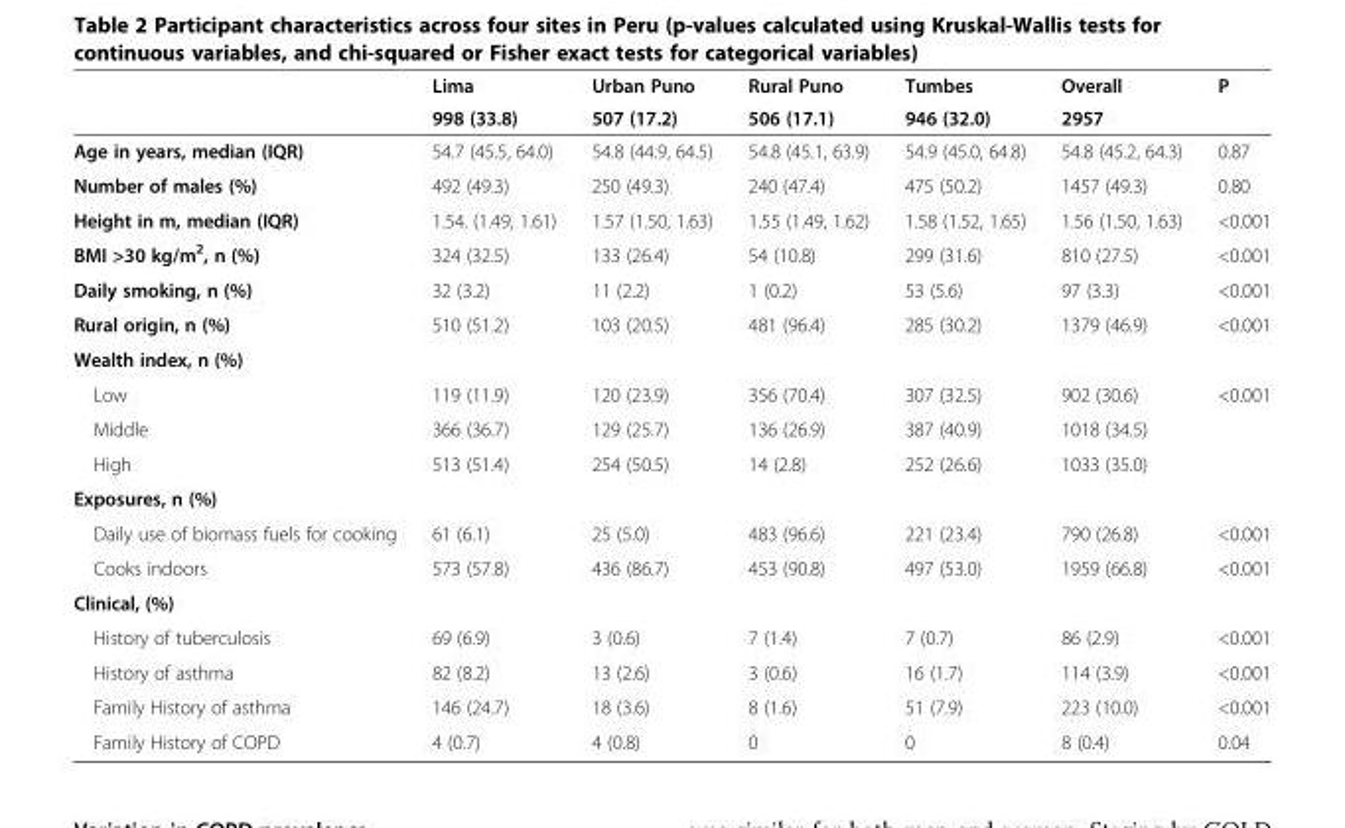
<table><thead><tr><td rowspan="2"></td><td rowspan="2">Lima 998 (33.8)</td><td rowspan="2">Urban Puno 507 (17.2)</td><td rowspan="2">Rural Puno 506 (17.1)</td><td rowspan="2">Tumbes 946 (32.0)</td><td rowspan="2">Overall 2957</td><td rowspan="2">P</td></tr><tr></tr></thead><tbody><tr><td>Age in years, median (IQR)</td><td>54.7 (45.5, 64.0)</td><td>54.8 (44.9, 64.5)</td><td>54.8 (45.1, 63.9)</td><td>54.9 (45.0, 64.8)</td><td>54.8 (45.2, 64.3)</td><td>0.87</td></tr><tr><td>Number of males (%)</td><td>492 (49.3)</td><td>250 (49.3)</td><td>240 (47.4)</td><td>475 (50.2)</td><td>1457 (49.3)</td><td>0.80</td></tr><tr><td>Height in m, median (IQR)</td><td>1.54. (1.49, 1.61)</td><td>1.57 (1.50, 1.63)</td><td>1.55 (1.49, 1.62)</td><td>1.58 (1.52, 1.65)</td><td>1.56 (1.50, 1.63)</td><td>&lt;0.001</td></tr><tr><td>BMI &gt;30 kg/m<sup>2</sup>, n (%)</td><td>324 (32.5)</td><td>133 (26.4)</td><td>54 (10.8)</td><td>299 (31.6)</td><td>810 (27.5)</td><td>&lt;0.001</td></tr><tr><td>Daily smoking, n (%)</td><td>32 (3.2)</td><td>11 (2.2)</td><td>1 (0.2)</td><td>53 (5.6)</td><td>97 (3.3)</td><td>&lt;0.001</td></tr><tr><td>Rural origin, n (%)</td><td>510 (51.2)</td><td>103 (20.5)</td><td>481 (96.4)</td><td>285 (30.2)</td><td>1379 (46.9)</td><td>&lt;0.001</td></tr><tr><td colspan="7">Wealth index, n (%)</td></tr><tr><td>Low</td><td>119 (11.9)</td><td>120 (23.9)</td><td>356 (70.4)</td><td>307 (32.5)</td><td>902 (30.6)</td><td>&lt;0.001</td></tr><tr><td>Middle</td><td>366 (36.7)</td><td>129 (25.7)</td><td>136 (26.9)</td><td>387 (40.9)</td><td>1018 (34.5)</td><td></td></tr><tr><td>High</td><td>513 (51.4)</td><td>254 (50.5)</td><td>14 (2.8)</td><td>252 (26.6)</td><td>1033 (35.0)</td><td></td></tr><tr><td colspan="7">Exposures, n (%)</td></tr><tr><td>Daily use of biomass fuels for cooking</td><td>61 (6.1)</td><td>25 (5.0)</td><td>483 (96.6)</td><td>221 (23.4)</td><td>790 (26.8)</td><td>&lt;0.001</td></tr><tr><td>Cooks indoors</td><td>573 (57.8)</td><td>436 (86.7)</td><td>453 (90.8)</td><td>497 (53.0)</td><td>1959 (66.8)</td><td>&lt;0.001</td></tr><tr><td colspan="7">Clinical, (%)</td></tr><tr><td>History of tuberculosis</td><td>69 (6.9)</td><td>3 (0.6)</td><td>7 (1.4)</td><td>7 (0.7)</td><td>86 (2.9)</td><td>&lt;0.001</td></tr><tr><td>History of asthma</td><td>82 (8.2)</td><td>13 (2.6)</td><td>3 (0.6)</td><td>16 (1.7)</td><td>114 (3.9)</td><td>&lt;0.001</td></tr><tr><td>Family History of asthma</td><td>146 (24.7)</td><td>18 (3.6)</td><td>8 (1.6)</td><td>51 (7.9)</td><td>223 (10.0)</td><td>&lt;0.001</td></tr><tr><td>Family History of COPD</td><td>4 (0.7)</td><td>4 (0.8)</td><td>0</td><td>0</td><td>8 (0.4)</td><td>0.04</td></tr></tbody></table>